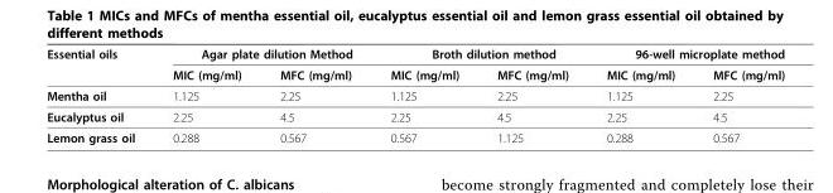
<table><thead><tr><td rowspan="2">Essential oils</td><td colspan="2">Agar plate dilution Method</td><td colspan="2">Broth dilution method</td><td colspan="2">96-well microplate method</td></tr><tr><td>MIC (mg/ml)</td><td>MFC (mg/ml)</td><td>MIC (mg/ml)</td><td>MFC (mg/ml)</td><td>MIC (mg/ml)</td><td>MFC (mg/ml)</td></tr></thead><tbody><tr><td>Mentha oil</td><td>1.125</td><td>2.25</td><td>1.125</td><td>2.25</td><td>1.125</td><td>2.25</td></tr><tr><td>Eucalyptus oil</td><td>2.25</td><td>4.5</td><td>2.25</td><td>4.5</td><td>2.25</td><td>4.5</td></tr><tr><td>Lemon grass oil</td><td>0.288</td><td>0.567</td><td>0.567</td><td>1.125</td><td>0.288</td><td>0.567</td></tr></tbody></table>